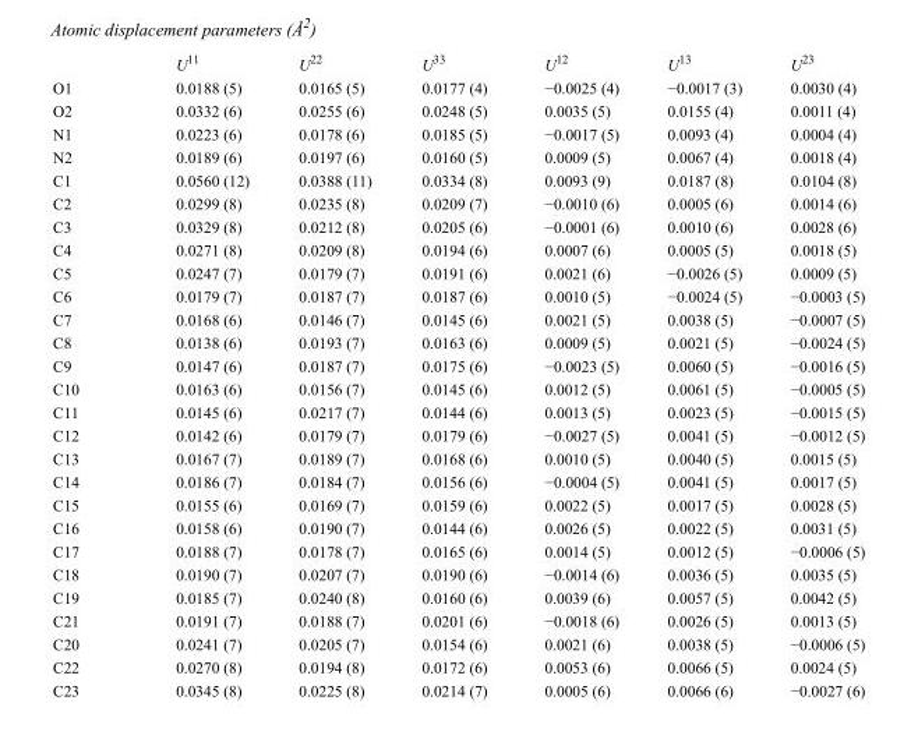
<table><thead><tr><td></td><td>U<sup>11</sup></td><td>U<sup>22</sup></td><td>U<sup>33</sup></td><td>U<sup>12</sup></td><td>U<sup>13</sup></td><td>U<sup>23</sup></td></tr></thead><tbody><tr><td>O1</td><td>0.0188 (5)</td><td>0.0165 (5)</td><td>0.0177 (4)</td><td>−0.0025 (4)</td><td>−0.0017 (3)</td><td>0.0030 (4)</td></tr><tr><td>O2</td><td>0.0332 (6)</td><td>0.0255 (6)</td><td>0.0248 (5)</td><td>0.0035 (5)</td><td>0.0155 (4)</td><td>0.0011 (4)</td></tr><tr><td>N1</td><td>0.0223 (6)</td><td>0.0178 (6)</td><td>0.0185 (5)</td><td>−0.0017 (5)</td><td>0.0093 (4)</td><td>0.0004 (4)</td></tr><tr><td>N2</td><td>0.0189 (6)</td><td>0.0197 (6)</td><td>0.0160 (5)</td><td>0.0009 (5)</td><td>0.0067 (4)</td><td>0.0018 (4)</td></tr><tr><td>C1</td><td>0.0560 (12)</td><td>0.0388 (11)</td><td>0.0334 (8)</td><td>0.0093 (9)</td><td>0.0187 (8)</td><td>0.0104 (8)</td></tr><tr><td>C2</td><td>0.0299 (8)</td><td>0.0235 (8)</td><td>0.0209 (7)</td><td>−0.0010 (6)</td><td>0.0005 (6)</td><td>0.0014 (6)</td></tr><tr><td>C3</td><td>0.0329 (8)</td><td>0.0212 (8)</td><td>0.0205 (6)</td><td>−0.0001 (6)</td><td>0.0010 (6)</td><td>0.0028 (6)</td></tr><tr><td>C4</td><td>0.0271 (8)</td><td>0.0209 (8)</td><td>0.0194 (6)</td><td>0.0007 (6)</td><td>0.0005 (5)</td><td>0.0018 (5)</td></tr><tr><td>C5</td><td>0.0247 (7)</td><td>0.0179 (7)</td><td>0.0191 (6)</td><td>0.0021 (6)</td><td>−0.0026 (5)</td><td>0.0009 (5)</td></tr><tr><td>C6</td><td>0.0179 (7)</td><td>0.0187 (7)</td><td>0.0187 (6)</td><td>0.0010 (5)</td><td>−0.0024 (5)</td><td>−0.0003 (5)</td></tr><tr><td>C7</td><td>0.0168 (6)</td><td>0.0146 (7)</td><td>0.0145 (6)</td><td>0.0021 (5)</td><td>0.0038 (5)</td><td>−0.0007 (5)</td></tr><tr><td>C8</td><td>0.0138 (6)</td><td>0.0193 (7)</td><td>0.0163 (6)</td><td>0.0009 (5)</td><td>0.0021 (5)</td><td>−0.0024 (5)</td></tr><tr><td>C9</td><td>0.0147 (6)</td><td>0.0187 (7)</td><td>0.0175 (6)</td><td>−0.0023 (5)</td><td>0.0060 (5)</td><td>−0.0016 (5)</td></tr><tr><td>C10</td><td>0.0163 (6)</td><td>0.0156 (7)</td><td>0.0145 (6)</td><td>0.0012 (5)</td><td>0.0061 (5)</td><td>−0.0005 (5)</td></tr><tr><td>C11</td><td>0.0145 (6)</td><td>0.0217 (7)</td><td>0.0144 (6)</td><td>0.0013 (5)</td><td>0.0023 (5)</td><td>−0.0015 (5)</td></tr><tr><td>C12</td><td>0.0142 (6)</td><td>0.0179 (7)</td><td>0.0179 (6)</td><td>−0.0027 (5)</td><td>0.0041 (5)</td><td>−0.0012 (5)</td></tr><tr><td>C13</td><td>0.0167 (7)</td><td>0.0189 (7)</td><td>0.0168 (6)</td><td>0.0010 (5)</td><td>0.0040 (5)</td><td>0.0015 (5)</td></tr><tr><td>C14</td><td>0.0186 (7)</td><td>0.0184 (7)</td><td>0.0156 (6)</td><td>−0.0004 (5)</td><td>0.0041 (5)</td><td>0.0017 (5)</td></tr><tr><td>C15</td><td>0.0155 (6)</td><td>0.0169 (7)</td><td>0.0159 (6)</td><td>0.0022 (5)</td><td>0.0017 (5)</td><td>0.0028 (5)</td></tr><tr><td>C16</td><td>0.0158 (6)</td><td>0.0190 (7)</td><td>0.0144 (6)</td><td>0.0026 (5)</td><td>0.0022 (5)</td><td>0.0031 (5)</td></tr><tr><td>C17</td><td>0.0188 (7)</td><td>0.0178 (7)</td><td>0.0165 (6)</td><td>0.0014 (5)</td><td>0.0012 (5)</td><td>−0.0006 (5)</td></tr><tr><td>C18</td><td>0.0190 (7)</td><td>0.0207 (7)</td><td>0.0190 (6)</td><td>−0.0014 (6)</td><td>0.0036 (5)</td><td>0.0035 (5)</td></tr><tr><td>C19</td><td>0.0185 (7)</td><td>0.0240 (8)</td><td>0.0160 (6)</td><td>0.0039 (6)</td><td>0.0057 (5)</td><td>0.0042 (5)</td></tr><tr><td>C21</td><td>0.0191 (7)</td><td>0.0188 (7)</td><td>0.0201 (6)</td><td>−0.0018 (6)</td><td>0.0026 (5)</td><td>0.0013 (5)</td></tr><tr><td>C20</td><td>0.0241 (7)</td><td>0.0205 (7)</td><td>0.0154 (6)</td><td>0.0021 (6)</td><td>0.0038 (5)</td><td>−0.0006 (5)</td></tr><tr><td>C22</td><td>0.0270 (8)</td><td>0.0194 (8)</td><td>0.0172 (6)</td><td>0.0053 (6)</td><td>0.0066 (5)</td><td>0.0024 (5)</td></tr><tr><td>C23</td><td>0.0345 (8)</td><td>0.0225 (8)</td><td>0.0214 (7)</td><td>0.0005 (6)</td><td>0.0066 (6)</td><td>−0.0027 (6)</td></tr></tbody></table>